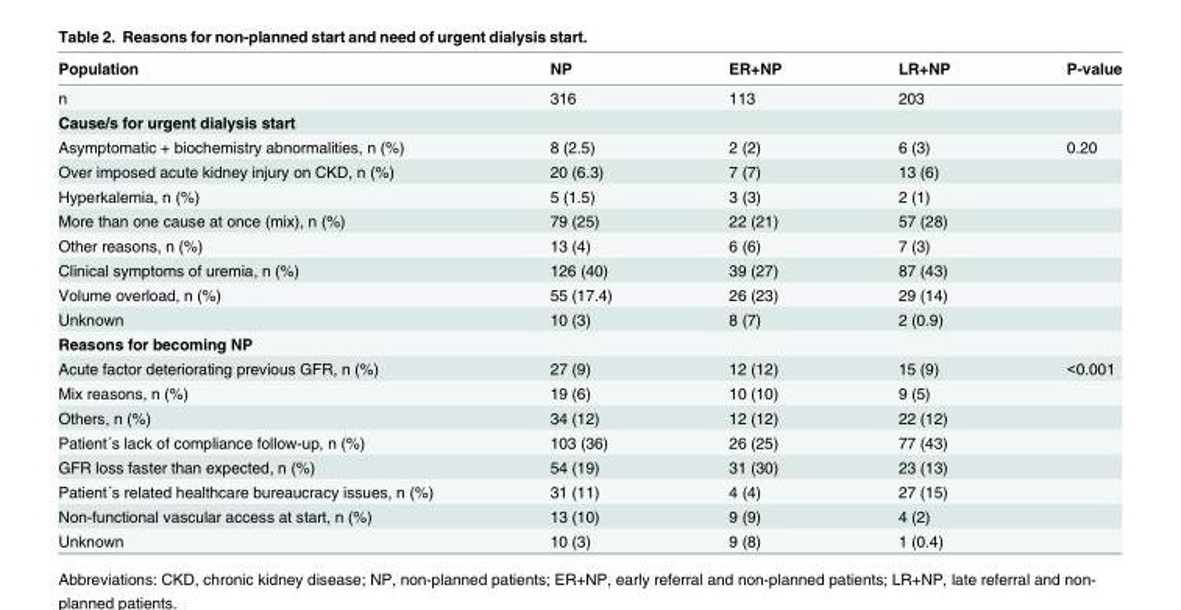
<table><thead><tr><td>Population</td><td>NP</td><td>ER+NP</td><td>LR+NP</td><td>P-value</td></tr></thead><tbody><tr><td>n</td><td>316</td><td>113</td><td>203</td><td></td></tr><tr><td colspan="5">Cause/s for urgent dialysis start</td></tr><tr><td>Asymptomatic + biochemistry abnormalities, n (%)</td><td>8 (2.5)</td><td>2 (2)</td><td>6 (3)</td><td>0.20</td></tr><tr><td>Over imposed acute kidney injury on CKD, n (%)</td><td>20 (6.3)</td><td>7 (7)</td><td>13 (6)</td><td></td></tr><tr><td>Hyperkalemia, n (%)</td><td>5 (1.5)</td><td>3 (3)</td><td>2 (1)</td><td></td></tr><tr><td>More than one cause at once (mix), n (%)</td><td>79 (25)</td><td>22 (21)</td><td>57 (28)</td><td></td></tr><tr><td>Other reasons, n (%)</td><td>13 (4)</td><td>6 (6)</td><td>7 (3)</td><td></td></tr><tr><td>Clinical symptoms of uremia, n (%)</td><td>126 (40)</td><td>39 (27)</td><td>87 (43)</td><td></td></tr><tr><td>Volume overload, n (%)</td><td>55 (17.4)</td><td>26 (23)</td><td>29 (14)</td><td></td></tr><tr><td>Unknown</td><td>10 (3)</td><td>8 (7)</td><td>2 (0.9)</td><td></td></tr><tr><td colspan="5">Reasons for becoming NP</td></tr><tr><td>Acute factor deteriorating previous GFR, n (%)</td><td>27 (9)</td><td>12 (12)</td><td>15 (9)</td><td>&lt;0.001</td></tr><tr><td>Mix reasons, n (%)</td><td>19 (6)</td><td>10 (10)</td><td>9 (5)</td><td></td></tr><tr><td>Others, n (%)</td><td>34 (12)</td><td>12 (12)</td><td>22 (12)</td><td></td></tr><tr><td>Patient´s lack of compliance follow-up, n (%)</td><td>103 (36)</td><td>26 (25)</td><td>77 (43)</td><td></td></tr><tr><td>GFR loss faster than expected, n (%)</td><td>54 (19)</td><td>31 (30)</td><td>23 (13)</td><td></td></tr><tr><td>Patient´s related healthcare bureaucracy issues, n (%)</td><td>31 (11)</td><td>4 (4)</td><td>27 (15)</td><td></td></tr><tr><td>Non-functional vascular access at start, n (%)</td><td>13 (10)</td><td>9 (9)</td><td>4 (2)</td><td></td></tr><tr><td>Unknown</td><td>10 (3)</td><td>9 (8)</td><td>1 (0.4)</td><td></td></tr></tbody></table>